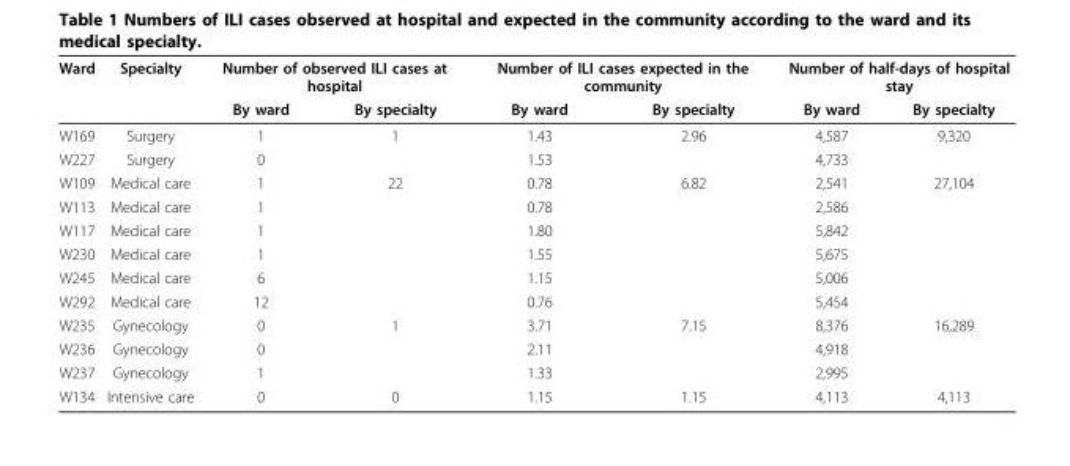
<table><thead><tr><td rowspan="2">Ward</td><td rowspan="2">Specialty</td><td colspan="2">Number of observed ILI cases at hospital</td><td colspan="2">Number of ILI cases expected in the community</td><td colspan="2">Number of half-days of hospital stay</td></tr><tr><td>By ward</td><td>By specialty</td><td>By ward</td><td>By specialty</td><td>By ward</td><td>By specialty</td></tr></thead><tbody><tr><td>W169</td><td>Surgery</td><td>1</td><td>1</td><td>1.43</td><td>2.96</td><td>4,587</td><td>9,320</td></tr><tr><td>W227</td><td>Surgery</td><td>0</td><td></td><td>1.53</td><td></td><td>4,733</td><td></td></tr><tr><td>W109</td><td>Medical care</td><td>1</td><td>22</td><td>0.78</td><td>6.82</td><td>2,541</td><td>27,104</td></tr><tr><td>W113</td><td>Medical care</td><td>1</td><td></td><td>0.78</td><td></td><td>2,586</td><td></td></tr><tr><td>W117</td><td>Medical care</td><td>1</td><td></td><td>1.80</td><td></td><td>5,842</td><td></td></tr><tr><td>W230</td><td>Medical care</td><td>1</td><td></td><td>1.55</td><td></td><td>5,675</td><td></td></tr><tr><td>W245</td><td>Medical care</td><td>6</td><td></td><td>1.15</td><td></td><td>5,006</td><td></td></tr><tr><td>W292</td><td>Medical care</td><td>12</td><td></td><td>0.76</td><td></td><td>5,454</td><td></td></tr><tr><td>W235</td><td>Gynecology</td><td>0</td><td>1</td><td>3.71</td><td>7.15</td><td>8,376</td><td>16,289</td></tr><tr><td>W236</td><td>Gynecology</td><td>0</td><td></td><td>2.11</td><td></td><td>4,918</td><td></td></tr><tr><td>W237</td><td>Gynecology</td><td>1</td><td></td><td>1.33</td><td></td><td>2,995</td><td></td></tr><tr><td>W134</td><td>Intensive care</td><td>0</td><td>0</td><td>1.15</td><td>1.15</td><td>4,113</td><td>4,113</td></tr></tbody></table>